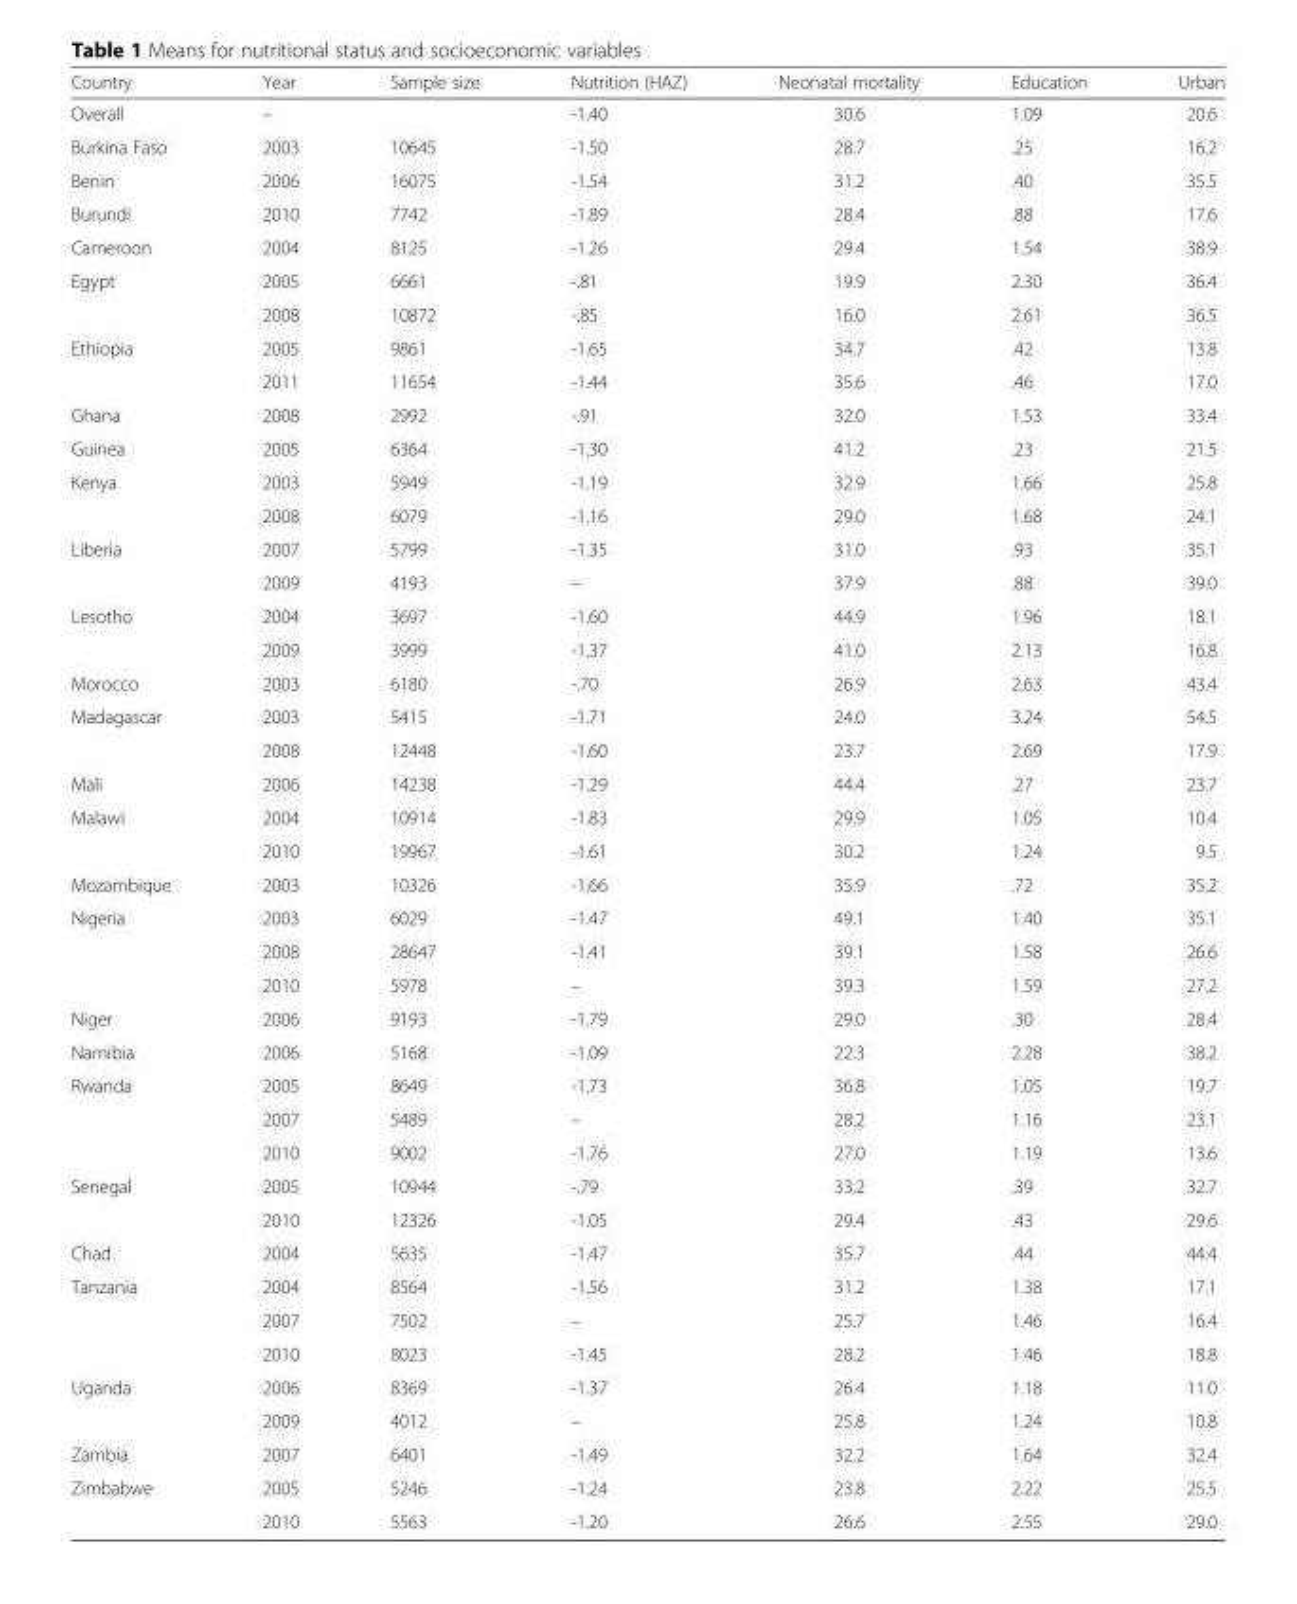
<table><thead><tr><td>Country</td><td>Year</td><td>Sample size</td><td>Nutrition (HAZ)</td><td>Neonatal mortality</td><td>Education</td><td>Urban</td></tr></thead><tbody><tr><td>Overall</td><td>–</td><td></td><td>-1.40</td><td>30.6</td><td>1.09</td><td>20.6</td></tr><tr><td>Burkina Faso</td><td>2003</td><td>10645</td><td>-1.50</td><td>28.7</td><td>.25</td><td>16.2</td></tr><tr><td>Benin</td><td>2006</td><td>16075</td><td>-1.54</td><td>31.2</td><td>.40</td><td>35.5</td></tr><tr><td>Burundi</td><td>2010</td><td>7742</td><td>-1.89</td><td>28.4</td><td>.88</td><td>17.6</td></tr><tr><td>Cameroon</td><td>2004</td><td>8125</td><td>-1.26</td><td>29.4</td><td>1.54</td><td>38.9</td></tr><tr><td rowspan="2">Egypt</td><td>2005</td><td>6661</td><td>-.81</td><td>19.9</td><td>2.30</td><td>36.4</td></tr><tr><td>2008</td><td>10872</td><td>-.85</td><td>16.0</td><td>2.61</td><td>36.5</td></tr><tr><td rowspan="2">Ethiopia</td><td>2005</td><td>9861</td><td>-1.65</td><td>34.7</td><td>.42</td><td>13.8</td></tr><tr><td>2011</td><td>11654</td><td>-1.44</td><td>35.6</td><td>.46</td><td>17.0</td></tr><tr><td>Ghana</td><td>2008</td><td>2992</td><td>-.91</td><td>32.0</td><td>1.53</td><td>33.4</td></tr><tr><td>Guinea</td><td>2005</td><td>6364</td><td>-1.30</td><td>41.2</td><td>.23</td><td>21.5</td></tr><tr><td rowspan="2">Kenya</td><td>2003</td><td>5949</td><td>-1.19</td><td>32.9</td><td>1.66</td><td>25.8</td></tr><tr><td>2008</td><td>6079</td><td>-1.16</td><td>29.0</td><td>1.68</td><td>24.1</td></tr><tr><td rowspan="2">Liberia</td><td>2007</td><td>5799</td><td>-1.35</td><td>31.0</td><td>.93</td><td>35.1</td></tr><tr><td>2009</td><td>4193</td><td>–</td><td>37.9</td><td>.88</td><td>39.0</td></tr><tr><td rowspan="2">Lesotho</td><td>2004</td><td>3697</td><td>-1.60</td><td>44.9</td><td>1.96</td><td>18.1</td></tr><tr><td>2009</td><td>3999</td><td>-1.37</td><td>41.0</td><td>2.13</td><td>16.8</td></tr><tr><td>Morocco</td><td>2003</td><td>6180</td><td>-.70</td><td>26.9</td><td>2.63</td><td>43.4</td></tr><tr><td rowspan="2">Madagascar</td><td>2003</td><td>5415</td><td>-1.71</td><td>24.0</td><td>3.24</td><td>54.5</td></tr><tr><td>2008</td><td>12448</td><td>-1.60</td><td>23.7</td><td>2.69</td><td>17.9</td></tr><tr><td>Mali</td><td>2006</td><td>14238</td><td>-1.29</td><td>44.4</td><td>.27</td><td>23.7</td></tr><tr><td rowspan="2">Malawi</td><td>2004</td><td>10914</td><td>-1.83</td><td>29.9</td><td>1.05</td><td>10.4</td></tr><tr><td>2010</td><td>19967</td><td>-1.61</td><td>30.2</td><td>1.24</td><td>9.5</td></tr><tr><td>Mozambique</td><td>2003</td><td>10326</td><td>-1.66</td><td>35.9</td><td>.72</td><td>35.2</td></tr><tr><td rowspan="3">Nigeria</td><td>2003</td><td>6029</td><td>-1.47</td><td>49.1</td><td>1.40</td><td>35.1</td></tr><tr><td>2008</td><td>28647</td><td>-1.41</td><td>39.1</td><td>1.58</td><td>26.6</td></tr><tr><td>2010</td><td>5978</td><td>–</td><td>39.3</td><td>1.59</td><td>27.2</td></tr><tr><td>Niger</td><td>2006</td><td>9193</td><td>-1.79</td><td>29.0</td><td>.30</td><td>28.4</td></tr><tr><td>Namibia</td><td>2006</td><td>5168</td><td>-1.09</td><td>22.3</td><td>2.28</td><td>38.2</td></tr><tr><td rowspan="3">Rwanda</td><td>2005</td><td>8649</td><td>-1.73</td><td>36.8</td><td>1.05</td><td>19.7</td></tr><tr><td>2007</td><td>5489</td><td>–</td><td>28.2</td><td>1.16</td><td>23.1</td></tr><tr><td>2010</td><td>9002</td><td>-1.76</td><td>27.0</td><td>1.19</td><td>13.6</td></tr><tr><td rowspan="2">Senegal</td><td>2005</td><td>10944</td><td>-.79</td><td>33.2</td><td>.39</td><td>32.7</td></tr><tr><td>2010</td><td>12326</td><td>-1.05</td><td>29.4</td><td>.43</td><td>29.6</td></tr><tr><td>Chad</td><td>2004</td><td>5635</td><td>-1.47</td><td>35.7</td><td>.44</td><td>44.4</td></tr><tr><td rowspan="3">Tanzania</td><td>2004</td><td>8564</td><td>-1.56</td><td>31.2</td><td>1.38</td><td>17.1</td></tr><tr><td>2007</td><td>7502</td><td>–</td><td>25.7</td><td>1.46</td><td>16.4</td></tr><tr><td>2010</td><td>8023</td><td>-1.45</td><td>28.2</td><td>1.46</td><td>18.8</td></tr><tr><td rowspan="2">Uganda</td><td>2006</td><td>8369</td><td>-1.37</td><td>26.4</td><td>1.18</td><td>11.0</td></tr><tr><td>2009</td><td>4012</td><td>–</td><td>25.8</td><td>1.24</td><td>10.8</td></tr><tr><td>Zambia</td><td>2007</td><td>6401</td><td>-1.49</td><td>32.2</td><td>1.64</td><td>32.4</td></tr><tr><td rowspan="2">Zimbabwe</td><td>2005</td><td>5246</td><td>-1.24</td><td>23.8</td><td>2.22</td><td>25.5</td></tr><tr><td>2010</td><td>5563</td><td>-1.20</td><td>26.6</td><td>2.55</td><td>29.0</td></tr></tbody></table>